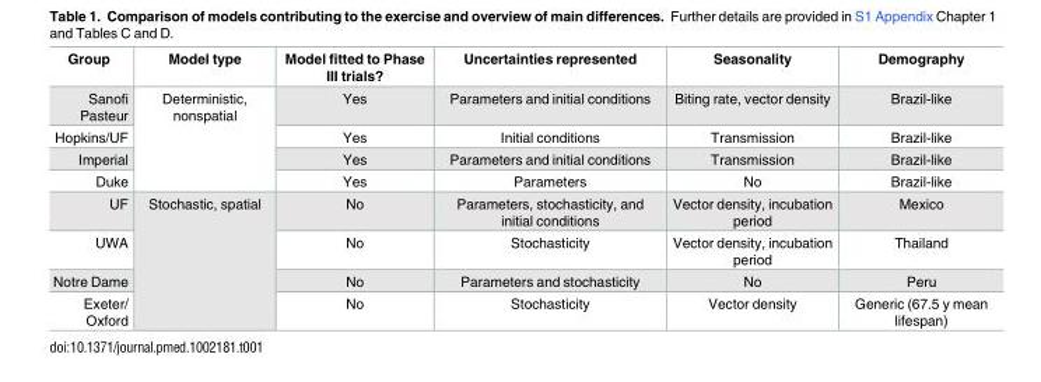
<table><thead><tr><td>Group</td><td>Model type</td><td>Model fitted to Phase III trials?</td><td>Uncertainties represented</td><td>Seasonality</td><td>Demography</td></tr></thead><tbody><tr><td>Sanofi Pasteur</td><td rowspan="4">Deterministic, nonspatial</td><td>Yes</td><td>Parameters and initial conditions</td><td>Biting rate, vector density</td><td>Brazil-like</td></tr><tr><td>Hopkins/UF</td><td>Yes</td><td>Initial conditions</td><td>Transmission</td><td>Brazil-like</td></tr><tr><td>Imperial</td><td>Yes</td><td>Parameters and initial conditions</td><td>Transmission</td><td>Brazil-like</td></tr><tr><td>Duke</td><td>Yes</td><td>Parameters</td><td>No</td><td>Brazil-like</td></tr><tr><td>UF</td><td rowspan="4">Stochastic, spatial</td><td>No</td><td>Parameters, stochasticity, and initial conditions</td><td>Vector density, incubation period</td><td>Mexico</td></tr><tr><td>UWA</td><td>No</td><td>Stochasticity</td><td>Vector density, incubation period</td><td>Thailand</td></tr><tr><td>Notre Dame</td><td>No</td><td>Parameters and stochasticity</td><td>No</td><td>Peru</td></tr><tr><td>Exeter/ Oxford</td><td>No</td><td>Stochasticity</td><td>Vector density</td><td>Generic (67.5 y mean lifespan)</td></tr></tbody></table>